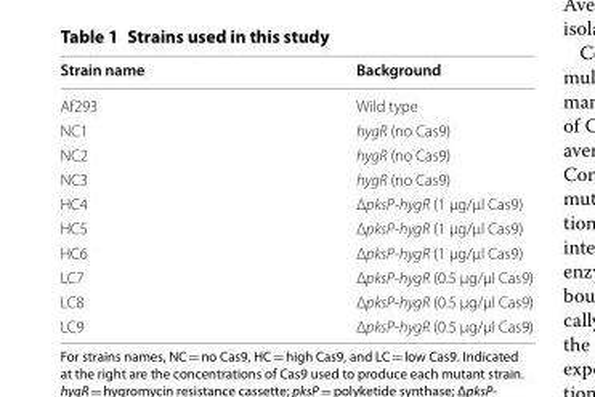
<table><thead><tr><td>Strain name</td><td>Background</td></tr></thead><tbody><tr><td>Af293</td><td>Wild type</td></tr><tr><td>NC1</td><td>hygR (no Cas9)</td></tr><tr><td>NC2</td><td>hygR (no Cas9)</td></tr><tr><td>NC3</td><td>hygR (no Cas9)</td></tr><tr><td>HC4</td><td>ΔpksP‑hygR (1 µg/µl Cas9)</td></tr><tr><td>HC5</td><td>ΔpksP‑hygR (1 µg/µl Cas9)</td></tr><tr><td>HC6</td><td>ΔpksP‑hygR (1 µg/µl Cas9)</td></tr><tr><td>LC7</td><td>ΔpksP‑hygR (0.5 µg/µl Cas9)</td></tr><tr><td>LC8</td><td>ΔpksP‑hygR (0.5 µg/µl Cas9)</td></tr><tr><td>LC9</td><td>ΔpksP‑hygR (0.5 µg/µl Cas9)</td></tr></tbody></table>